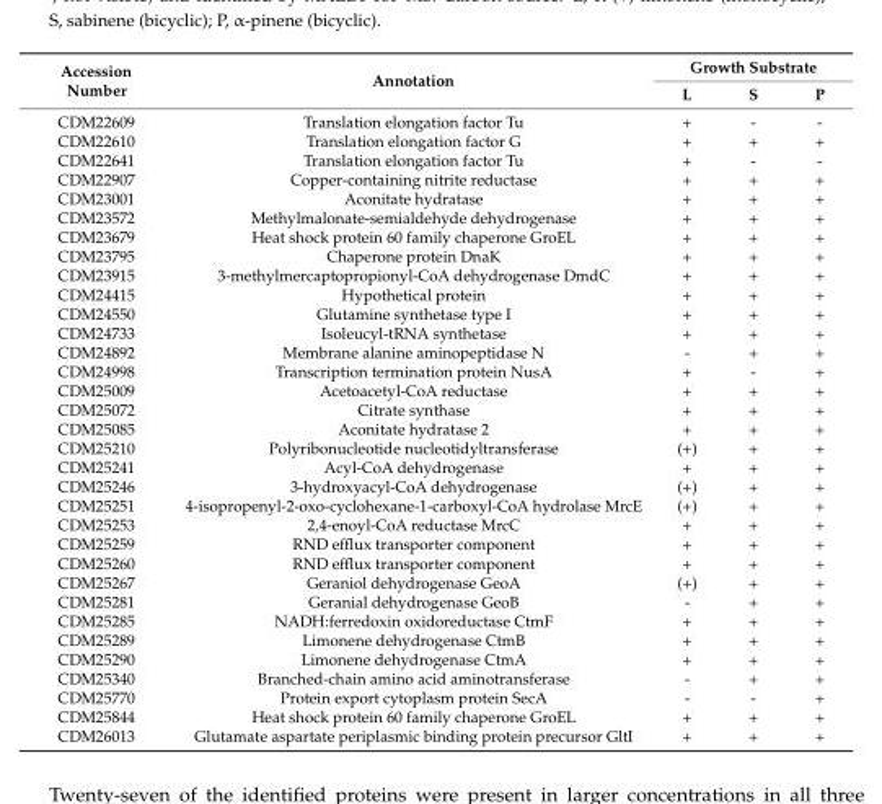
<table><thead><tr><td rowspan="2">Accession Number</td><td rowspan="2">Annotation</td><td colspan="3">Growth Substrate</td></tr><tr><td>L</td><td>S</td><td>P</td></tr></thead><tbody><tr><td>CDM22609</td><td>Translation elongation factor Tu</td><td>+</td><td>-</td><td>-</td></tr><tr><td>CDM22610</td><td>Translation elongation factor G</td><td>+</td><td>+</td><td>+</td></tr><tr><td>CDM22641</td><td>Translation elongation factor Tu</td><td>+</td><td>-</td><td>-</td></tr><tr><td>CDM22907</td><td>Copper-containing nitrite reductase</td><td>+</td><td>+</td><td>+</td></tr><tr><td>CDM23001</td><td>Aconitate hydratase</td><td>+</td><td>+</td><td>+</td></tr><tr><td>CDM23572</td><td>Methylmalonate-semialdehyde dehydrogenase</td><td>+</td><td>+</td><td>+</td></tr><tr><td>CDM23679</td><td>Heat shock protein 60 family chaperone GroEL</td><td>+</td><td>+</td><td>+</td></tr><tr><td>CDM23795</td><td>Chaperone protein DnaK</td><td>+</td><td>+</td><td>+</td></tr><tr><td>CDM23915</td><td>3-methylmercaptopropionyl-CoA dehydrogenase DmdC</td><td>+</td><td>+</td><td>+</td></tr><tr><td>CDM24415</td><td>Hypothetical protein</td><td>+</td><td>+</td><td>+</td></tr><tr><td>CDM24550</td><td>Glutamine synthetase type I</td><td>+</td><td>+</td><td>+</td></tr><tr><td>CDM24733</td><td>Isoleucyl-tRNA synthetase</td><td>+</td><td>+</td><td>+</td></tr><tr><td>CDM24892</td><td>Membrane alanine aminopeptidase N</td><td>-</td><td>+</td><td>+</td></tr><tr><td>CDM24998</td><td>Transcription termination protein NusA</td><td>+</td><td>-</td><td>+</td></tr><tr><td>CDM25009</td><td>Acetoacetyl-CoA reductase</td><td>+</td><td>+</td><td>+</td></tr><tr><td>CDM25072</td><td>Citrate synthase</td><td>+</td><td>+</td><td>+</td></tr><tr><td>CDM25085</td><td>Aconitate hydratase 2</td><td>+</td><td>+</td><td>+</td></tr><tr><td>CDM25210</td><td>Polyribonucleotide nucleotidyltransferase</td><td>(+)</td><td>+</td><td>+</td></tr><tr><td>CDM25241</td><td>Acyl-CoA dehydrogenase</td><td>+</td><td>+</td><td>+</td></tr><tr><td>CDM25246</td><td>3-hydroxyacyl-CoA dehydrogenase</td><td>(+)</td><td>+</td><td>+</td></tr><tr><td>CDM25251</td><td>4-isopropenyl-2-oxo-cyclohexane-1-carboxyl-CoA hydrolase MrcE</td><td>(+)</td><td>+</td><td>+</td></tr><tr><td>CDM25253</td><td>2,4-enoyl-CoA reductase MrcC</td><td>+</td><td>+</td><td>+</td></tr><tr><td>CDM25259</td><td>RND efflux transporter component</td><td>+</td><td>+</td><td>+</td></tr><tr><td>CDM25260</td><td>RND efflux transporter component</td><td>+</td><td>+</td><td>+</td></tr><tr><td>CDM25267</td><td>Geraniol dehydrogenase GeoA</td><td>(+)</td><td>+</td><td>+</td></tr><tr><td>CDM25281</td><td>Geranial dehydrogenase GeoB</td><td>-</td><td>+</td><td>+</td></tr><tr><td>CDM25285</td><td>NADH:ferredoxin oxidoreductase CtmF</td><td>+</td><td>+</td><td>+</td></tr><tr><td>CDM25289</td><td>Limonene dehydrogenase CtmB</td><td>+</td><td>+</td><td>+</td></tr><tr><td>CDM25290</td><td>Limonene dehydrogenase CtmA</td><td>+</td><td>+</td><td>+</td></tr><tr><td>CDM25340</td><td>Branched-chain amino acid aminotransferase</td><td>-</td><td>+</td><td>+</td></tr><tr><td>CDM25770</td><td>Protein export cytoplasm protein SecA</td><td>-</td><td>-</td><td>+</td></tr><tr><td>CDM25844</td><td>Heat shock protein 60 family chaperone GroEL</td><td>+</td><td>+</td><td>+</td></tr><tr><td>CDM26013</td><td>Glutamate aspartate periplasmic binding protein precursor GltI</td><td>+</td><td>+</td><td>+</td></tr></tbody></table>